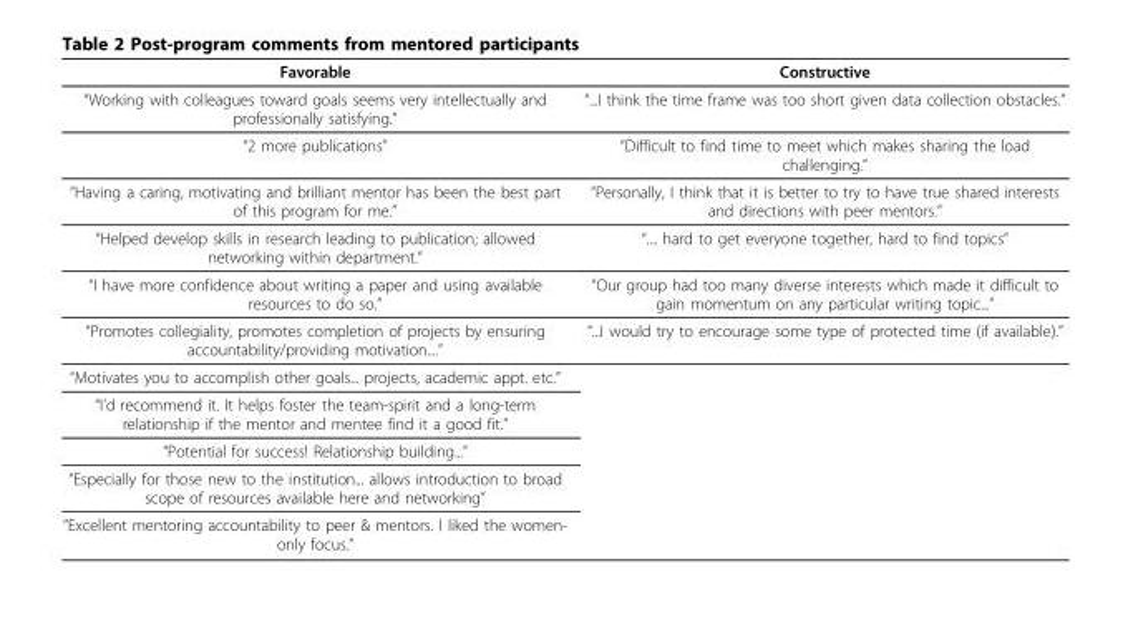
<table><thead><tr><td>Favorable</td><td>Constructive</td></tr></thead><tbody><tr><td>“Working with colleagues toward goals seems very intellectually and professionally satisfying.”</td><td>“...I think the time frame was too short given data collection obstacles.”</td></tr><tr><td>“2 more publications”</td><td>“Difficult to find time to meet which makes sharing the load challenging.”</td></tr><tr><td>“Having a caring, motivating and brilliant mentor has been the best part of this program for me.”</td><td>“Personally, I think that it is better to try to have true shared interests and directions with peer mentors.”</td></tr><tr><td>“Helped develop skills in research leading to publication; allowed networking within department.”</td><td>“.... hard to get everyone together, hard to find topics”</td></tr><tr><td>“I have more confidence about writing a paper and using available resources to do so.”</td><td>“Our group had too many diverse interests which made it difficult to gain momentum on any particular writing topic...”</td></tr><tr><td>“Promotes collegiality, promotes completion of projects by ensuring accountability/providing motivation....”</td><td>“...I would try to encourage some type of protected time (if available).”</td></tr><tr><td colspan="2">“Motivates you to accomplish other goals... projects, academic appt. etc.”</td></tr><tr><td colspan="2">“I’d recommend it. It helps foster the team-spirit and a long-term relationship if the mentor and mentee find it a good fit.”</td></tr><tr><td colspan="2">“Potential for success! Relationship building...”</td></tr><tr><td colspan="2">“Especially for those new to the institution... allows introduction to broad scope of resources available here and networking”</td></tr><tr><td>“Excellent mentoring accountability to peer &amp; mentors. I liked the women- only focus.”</td><td></td></tr></tbody></table>